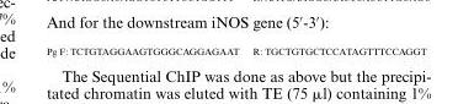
<table><tbody><tr><td>Pg F: TCTGTAGGAAGTGGGCAGGAGAAT</td><td>R: TGCTGTGCTCCATAGTTTCCAGGT</td></tr></tbody></table>